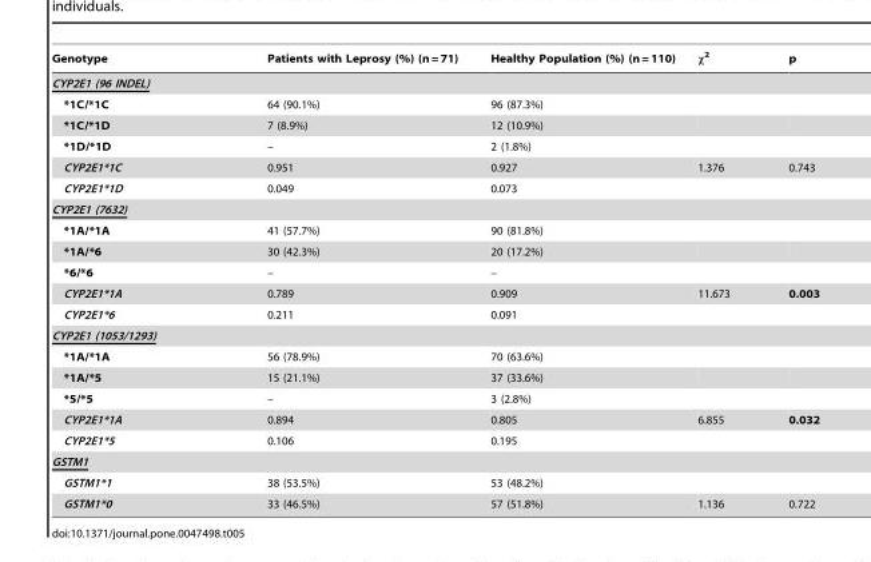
<table><thead><tr><td>Genotype</td><td>Patients with Leprosy (%) (n = 71)</td><td>Healthy Population (%) (n = 110)</td><td>x2</td><td>p</td></tr></thead><tbody><tr><td colspan="5">CYP2E1 (96 INDEL)</td></tr><tr><td>*1C/*1C</td><td>64 (90.1%)</td><td>96 (87.3%)</td><td></td><td></td></tr><tr><td>*1C/*1D</td><td>7 (8.9%)</td><td>12 (10.9%)</td><td></td><td></td></tr><tr><td>*1D/*1D</td><td>–</td><td>2 (1.8%)</td><td></td><td></td></tr><tr><td>CYP2E1*1C</td><td>0.951</td><td>0.927</td><td>1.376</td><td>0.743</td></tr><tr><td>CYP2E1*1D</td><td>0.049</td><td>0.073</td><td></td><td></td></tr><tr><td colspan="5">CYP2E1 (7632)</td></tr><tr><td>*1A/*1A</td><td>41 (57.7%)</td><td>90 (81.8%)</td><td></td><td></td></tr><tr><td>*1A/*6</td><td>30 (42.3%)</td><td>20 (17.2%)</td><td></td><td></td></tr><tr><td>*6/*6</td><td>–</td><td>–</td><td></td><td></td></tr><tr><td>CYP2E1*1A</td><td>0.789</td><td>0.909</td><td>11.673</td><td>0.003</td></tr><tr><td>CYP2E1*6</td><td>0.211</td><td>0.091</td><td></td><td></td></tr><tr><td colspan="5">CYP2E1 (1053/1293)</td></tr><tr><td>*1A/*1A</td><td>56 (78.9%)</td><td>70 (63.6%)</td><td></td><td></td></tr><tr><td>*1A/*5</td><td>15 (21.1%)</td><td>37 (33.6%)</td><td></td><td></td></tr><tr><td>*5/*5</td><td>–</td><td>3 (2.8%)</td><td></td><td></td></tr><tr><td>CYP2E1*1A</td><td>0.894</td><td>0.805</td><td>6.855</td><td>0.032</td></tr><tr><td>CYP2E1*5</td><td>0.106</td><td>0.195</td><td></td><td></td></tr><tr><td colspan="5">GSTM1</td></tr><tr><td>GSTM1*1</td><td>38 (53.5%)</td><td>53 (48.2%)</td><td></td><td></td></tr><tr><td>GSTM1*0</td><td>33 (46.5%)</td><td>57 (51.8%)</td><td>1.136</td><td>0.722</td></tr></tbody></table>